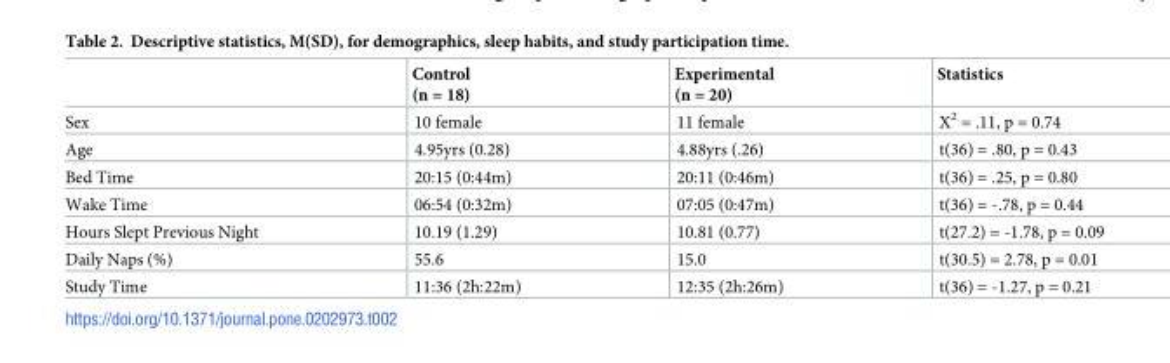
<table><thead><tr><td></td><td>Control (n = 18)</td><td>Experimental (n = 20)</td><td>Statistics</td></tr></thead><tbody><tr><td>Sex</td><td>10 female</td><td>11 female</td><td>X<sup>2</sup> = .11, p = 0.74</td></tr><tr><td>Age</td><td>4.95yrs (0.28)</td><td>4.88yrs (.26)</td><td>t(36) = .80, p = 0.43</td></tr><tr><td>Bed Time</td><td>20:15 (0:44m)</td><td>20:11 (0:46m)</td><td>t(36) = .25, p = 0.80</td></tr><tr><td>Wake Time</td><td>06:54 (0:32m)</td><td>07:05 (0:47m)</td><td>t(36) = -.78, p = 0.44</td></tr><tr><td>Hours Slept Previous Night</td><td>10.19 (1.29)</td><td>10.81 (0.77)</td><td>t(27.2) = -1.78, p = 0.09</td></tr><tr><td>Daily Naps (%)</td><td>55.6</td><td>15.0</td><td>t(30.5) = 2.78, p = 0.01</td></tr><tr><td>Study Time</td><td>11:36 (2h:22m)</td><td>12:35 (2h:26m)</td><td>t(36) = -1.27, p = 0.21</td></tr></tbody></table>